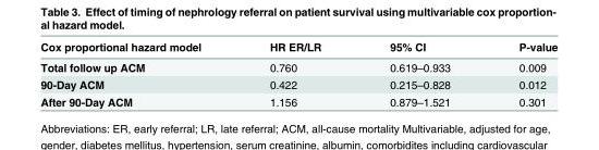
<table><thead><tr><td>Cox proportional hazard model</td><td>HR ER/LR</td><td>95% CI</td><td>P-value</td></tr></thead><tbody><tr><td>Total follow up ACM</td><td>0.760</td><td>0.619–0.933</td><td>0.009</td></tr><tr><td>90-Day ACM</td><td>0.422</td><td>0.215–0.828</td><td>0.012</td></tr><tr><td>After 90-Day ACM</td><td>1.156</td><td>0.879–1.521</td><td>0.301</td></tr></tbody></table>